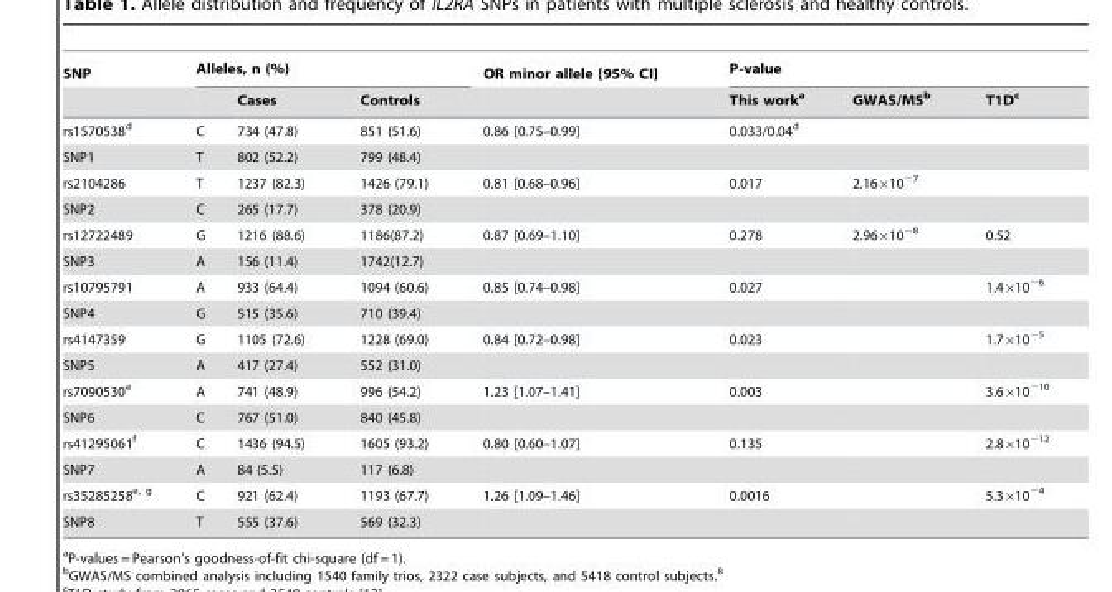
<table><thead><tr><td rowspan="2">SNP</td><td colspan="3">Alleles, n (%)</td><td rowspan="2">OR minor allele [95% CI]</td><td colspan="3">P-value</td></tr><tr><td></td><td>Cases</td><td>Controls</td><td>This work<sup>a</sup></td><td>GWAS/MS<sup>b</sup></td><td>T1D<sup>c</sup></td></tr></thead><tbody><tr><td>rs1570538<sup>d</sup></td><td>C</td><td>734 (47.8)</td><td>851 (51.6)</td><td>0.86 [0.75–0.99]</td><td>0.033/0.04<sup>d</sup></td><td></td><td></td></tr><tr><td>SNP1</td><td>T</td><td>802 (52.2)</td><td>799 (48.4)</td><td></td><td></td><td></td><td></td></tr><tr><td>rs2104286</td><td>T</td><td>1237 (82.3)</td><td>1426 (79.1)</td><td>0.81 [0.68–0.96]</td><td>0.017</td><td>2.16×10<sup>−7</sup></td><td></td></tr><tr><td>SNP2</td><td>C</td><td>265 (17.7)</td><td>378 (20.9)</td><td></td><td></td><td></td><td></td></tr><tr><td>rs12722489</td><td>G</td><td>1216 (88.6)</td><td>1186(87.2)</td><td>0.87 [0.69–1.10]</td><td>0.278</td><td>2.96×10<sup>−8</sup></td><td>0.52</td></tr><tr><td>SNP3</td><td>A</td><td>156 (11.4)</td><td>1742(12.7)</td><td></td><td></td><td></td><td></td></tr><tr><td>rs10795791</td><td>A</td><td>933 (64.4)</td><td>1094 (60.6)</td><td>0.85 [0.74–0.98]</td><td>0.027</td><td></td><td>1.4×10<sup>−6</sup></td></tr><tr><td>SNP4</td><td>G</td><td>515 (35.6)</td><td>710 (39.4)</td><td></td><td></td><td></td><td></td></tr><tr><td>rs4147359</td><td>G</td><td>1105 (72.6)</td><td>1228 (69.0)</td><td>0.84 [0.72–0.98]</td><td>0.023</td><td></td><td>1.7×10<sup>−5</sup></td></tr><tr><td>SNP5</td><td>A</td><td>417 (27.4)</td><td>552 (31.0)</td><td></td><td></td><td></td><td></td></tr><tr><td>rs7090530<sup>e</sup></td><td>A</td><td>741 (48.9)</td><td>996 (54.2)</td><td>1.23 [1.07–1.41]</td><td>0.003</td><td></td><td>3.6×10<sup>−10</sup></td></tr><tr><td>SNP6</td><td>C</td><td>767 (51.0)</td><td>840 (45.8)</td><td></td><td></td><td></td><td></td></tr><tr><td>rs41295061<sup>f</sup></td><td>C</td><td>1436 (94.5)</td><td>1605 (93.2)</td><td>0.80 [0.60–1.07]</td><td>0.135</td><td></td><td>2.8×10<sup>−12</sup></td></tr><tr><td>SNP7</td><td>A</td><td>84 (5.5)</td><td>117 (6.8)</td><td></td><td></td><td></td><td></td></tr><tr><td>rs35285258<sup>e,</sup> g</td><td>C</td><td>921 (62.4)</td><td>1193 (67.7)</td><td>1.26 [1.09–1.46]</td><td>0.0016</td><td></td><td>5.3×10<sup>−4</sup></td></tr><tr><td>SNP8</td><td>T</td><td>555 (37.6)</td><td>569 (32.3)</td><td></td><td></td><td></td><td></td></tr></tbody></table>